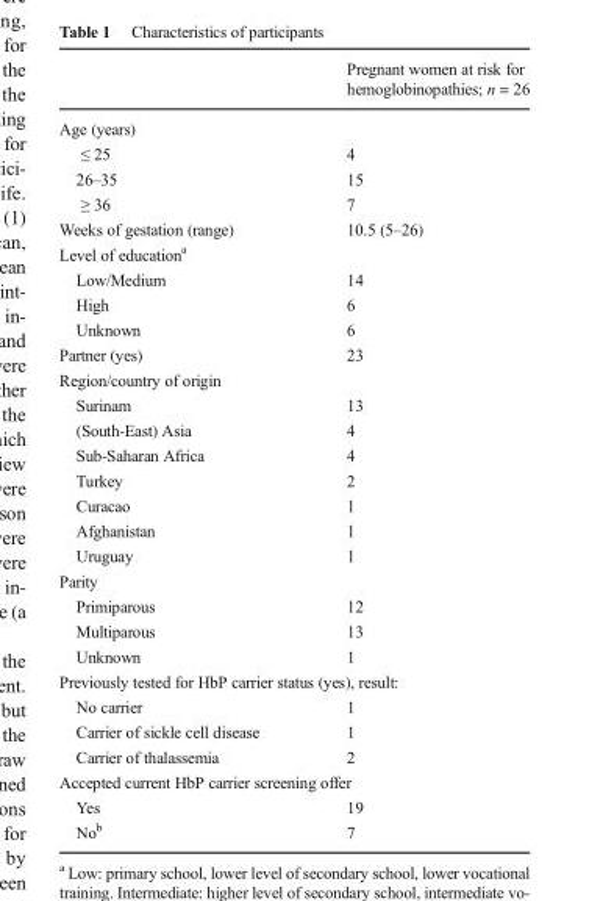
<table><thead><tr><td></td><td>Pregnant women at risk for hemoglobinopathies; n = 26</td></tr></thead><tbody><tr><td colspan="2">Age (years)</td></tr><tr><td>≤ 25</td><td>4</td></tr><tr><td>26–35</td><td>15</td></tr><tr><td>≥ 36</td><td>7</td></tr><tr><td>Weeks of gestation (range)</td><td>10.5 (5–26)</td></tr><tr><td colspan="2">Level of education<sup>a</sup></td></tr><tr><td>Low/Medium</td><td>14</td></tr><tr><td>High</td><td>6</td></tr><tr><td>Unknown</td><td>6</td></tr><tr><td>Partner (yes)</td><td>23</td></tr><tr><td colspan="2">Region/country of origin</td></tr><tr><td>Surinam</td><td>13</td></tr><tr><td>(South-East) Asia</td><td>4</td></tr><tr><td>Sub-Saharan Africa</td><td>4</td></tr><tr><td>Turkey</td><td>2</td></tr><tr><td>Curacao</td><td>1</td></tr><tr><td>Afghanistan</td><td>1</td></tr><tr><td>Uruguay</td><td>1</td></tr><tr><td colspan="2">Parity</td></tr><tr><td>Primiparous</td><td>12</td></tr><tr><td>Multiparous</td><td>13</td></tr><tr><td>Unknown</td><td>1</td></tr><tr><td colspan="2">Previously tested for HbP carrier status (yes), result:</td></tr><tr><td>No carrier</td><td>1</td></tr><tr><td>Carrier of sickle cell disease</td><td>1</td></tr><tr><td>Carrier of thalassemia</td><td>2</td></tr><tr><td colspan="2">Accepted current HbP carrier screening offer</td></tr><tr><td>Yes</td><td>19</td></tr><tr><td>No<sup>b</sup></td><td>7</td></tr></tbody></table>